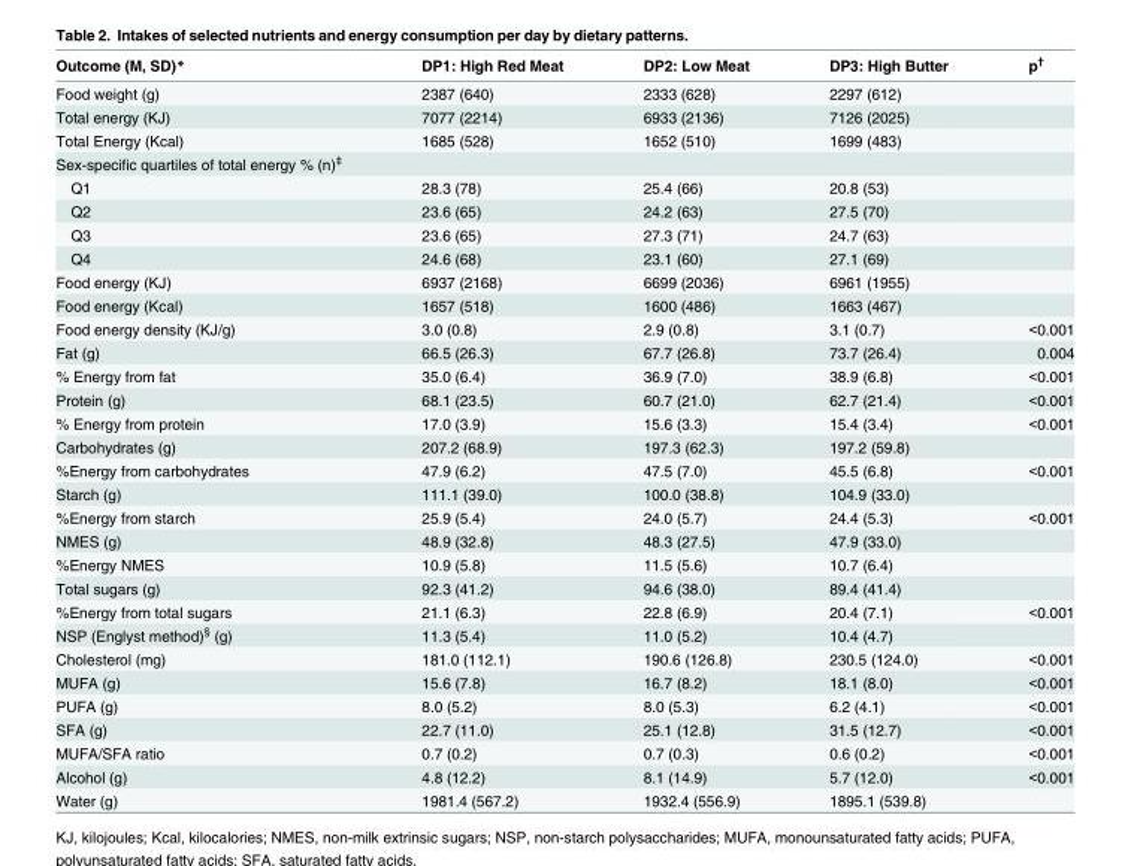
<table><thead><tr><td>Outcome (M, SD)*</td><td>DP1: High Red Meat</td><td>DP2: Low Meat</td><td>DP3: High Butter</td><td>p<sup>†</sup></td></tr></thead><tbody><tr><td>Food weight (g)</td><td>2387 (640)</td><td>2333 (628)</td><td>2297 (612)</td><td></td></tr><tr><td>Total energy (KJ)</td><td>7077 (2214)</td><td>6933 (2136)</td><td>7126 (2025)</td><td></td></tr><tr><td>Total Energy (Kcal)</td><td>1685 (528)</td><td>1652 (510)</td><td>1699 (483)</td><td></td></tr><tr><td colspan="5">Sex-specific quartiles of total energy % (n)<sup>‡</sup></td></tr><tr><td>Q1</td><td>28.3 (78)</td><td>25.4 (66)</td><td>20.8 (53)</td><td></td></tr><tr><td>Q2</td><td>23.6 (65)</td><td>24.2 (63)</td><td>27.5 (70)</td><td></td></tr><tr><td>Q3</td><td>23.6 (65)</td><td>27.3 (71)</td><td>24.7 (63)</td><td></td></tr><tr><td>Q4</td><td>24.6 (68)</td><td>23.1 (60)</td><td>27.1 (69)</td><td></td></tr><tr><td>Food energy (KJ)</td><td>6937 (2168)</td><td>6699 (2036)</td><td>6961 (1955)</td><td></td></tr><tr><td>Food energy (Kcal)</td><td>1657 (518)</td><td>1600 (486)</td><td>1663 (467)</td><td></td></tr><tr><td>Food energy density (KJ/g)</td><td>3.0 (0.8)</td><td>2.9 (0.8)</td><td>3.1 (0.7)</td><td>&lt;0.001</td></tr><tr><td>Fat (g)</td><td>66.5 (26.3)</td><td>67.7 (26.8)</td><td>73.7 (26.4)</td><td>0.004</td></tr><tr><td>% Energy from fat</td><td>35.0 (6.4)</td><td>36.9 (7.0)</td><td>38.9 (6.8)</td><td>&lt;0.001</td></tr><tr><td>Protein (g)</td><td>68.1 (23.5)</td><td>60.7 (21.0)</td><td>62.7 (21.4)</td><td>&lt;0.001</td></tr><tr><td>% Energy from protein</td><td>17.0 (3.9)</td><td>15.6 (3.3)</td><td>15.4 (3.4)</td><td>&lt;0.001</td></tr><tr><td>Carbohydrates (g)</td><td>207.2 (68.9)</td><td>197.3 (62.3)</td><td>197.2 (59.8)</td><td></td></tr><tr><td>%Energy from carbohydrates</td><td>47.9 (6.2)</td><td>47.5 (7.0)</td><td>45.5 (6.8)</td><td>&lt;0.001</td></tr><tr><td>Starch (g)</td><td>111.1 (39.0)</td><td>100.0 (38.8)</td><td>104.9 (33.0)</td><td></td></tr><tr><td>%Energy from starch</td><td>25.9 (5.4)</td><td>24.0 (5.7)</td><td>24.4 (5.3)</td><td>&lt;0.001</td></tr><tr><td>NMES (g)</td><td>48.9 (32.8)</td><td>48.3 (27.5)</td><td>47.9 (33.0)</td><td></td></tr><tr><td>%Energy NMES</td><td>10.9 (5.8)</td><td>11.5 (5.6)</td><td>10.7 (6.4)</td><td></td></tr><tr><td>Total sugars (g)</td><td>92.3 (41.2)</td><td>94.6 (38.0)</td><td>89.4 (41.4)</td><td></td></tr><tr><td>%Energy from total sugars</td><td>21.1 (6.3)</td><td>22.8 (6.9)</td><td>20.4 (7.1)</td><td>&lt;0.001</td></tr><tr><td>NSP (Englyst method)<sup>§</sup> (g)</td><td>11.3 (5.4)</td><td>11.0 (5.2)</td><td>10.4 (4.7)</td><td></td></tr><tr><td>Cholesterol (mg)</td><td>181.0 (112.1)</td><td>190.6 (126.8)</td><td>230.5 (124.0)</td><td>&lt;0.001</td></tr><tr><td>MUFA (g)</td><td>15.6 (7.8)</td><td>16.7 (8.2)</td><td>18.1 (8.0)</td><td>&lt;0.001</td></tr><tr><td>PUFA (g)</td><td>8.0 (5.2)</td><td>8.0 (5.3)</td><td>6.2 (4.1)</td><td>&lt;0.001</td></tr><tr><td>SFA (g)</td><td>22.7 (11.0)</td><td>25.1 (12.8)</td><td>31.5 (12.7)</td><td>&lt;0.001</td></tr><tr><td>MUFA/SFA ratio</td><td>0.7 (0.2)</td><td>0.7 (0.3)</td><td>0.6 (0.2)</td><td>&lt;0.001</td></tr><tr><td>Alcohol (g)</td><td>4.8 (12.2)</td><td>8.1 (14.9)</td><td>5.7 (12.0)</td><td>&lt;0.001</td></tr><tr><td>Water (g)</td><td>1981.4 (567.2)</td><td>1932.4 (556.9)</td><td>1895.1 (539.8)</td><td></td></tr></tbody></table>